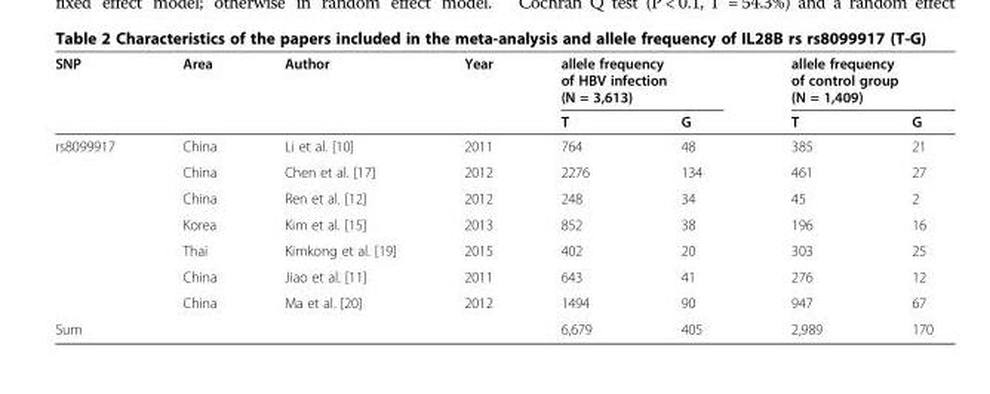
<table><thead><tr><td rowspan="2">SNP</td><td rowspan="2">Area</td><td rowspan="2">Author</td><td rowspan="2">Year</td><td colspan="2">allele frequency of HBV infection (N = 3,613)</td><td colspan="2">allele frequency of control group (N = 1,409)</td></tr><tr><td>T</td><td>G</td><td>T</td><td>G</td></tr></thead><tbody><tr><td rowspan="7">rs8099917</td><td>China</td><td>Li et al. [10]</td><td>2011</td><td>764</td><td>48</td><td>385</td><td>21</td></tr><tr><td>China</td><td>Chen et al. [17]</td><td>2012</td><td>2276</td><td>134</td><td>461</td><td>27</td></tr><tr><td>China</td><td>Ren et al. [12]</td><td>2012</td><td>248</td><td>34</td><td>45</td><td>2</td></tr><tr><td>Korea</td><td>Kim et al. [15]</td><td>2013</td><td>852</td><td>38</td><td>196</td><td>16</td></tr><tr><td>Thai</td><td>Kimkong et al. [19]</td><td>2015</td><td>402</td><td>20</td><td>303</td><td>25</td></tr><tr><td>China</td><td>Jiao et al. [11]</td><td>2011</td><td>643</td><td>41</td><td>276</td><td>12</td></tr><tr><td>China</td><td>Ma et al. [20]</td><td>2012</td><td>1494</td><td>90</td><td>947</td><td>67</td></tr><tr><td>Sum</td><td></td><td></td><td></td><td>6,679</td><td>405</td><td>2,989</td><td>170</td></tr></tbody></table>